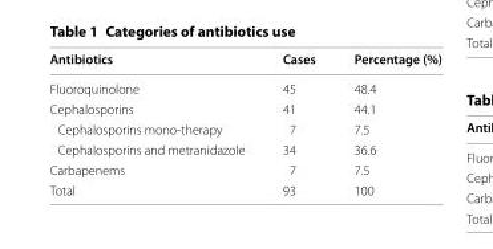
<table><thead><tr><td>Antibiotics</td><td>Cases</td><td>Percentage (%)</td></tr></thead><tbody><tr><td>Fluoroquinolone</td><td>45</td><td>48.4</td></tr><tr><td>Cephalosporins</td><td>41</td><td>44.1</td></tr><tr><td>Cephalosporins mono-therapy</td><td>7</td><td>7.5</td></tr><tr><td>Cephalosporins and metranidazole</td><td>34</td><td>36.6</td></tr><tr><td>Carbapenems</td><td>7</td><td>7.5</td></tr><tr><td>Total</td><td>93</td><td>100</td></tr></tbody></table>